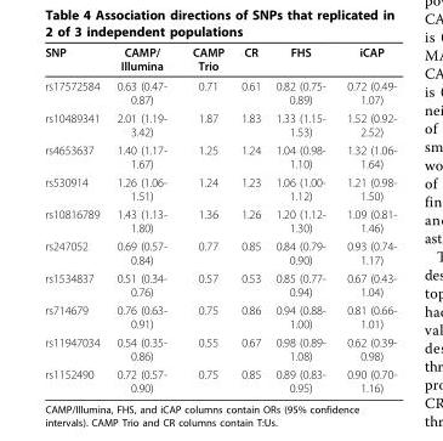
<table><thead><tr><td>SNP</td><td>CAMP/ Illumina</td><td>CAMP Trio</td><td>CR</td><td>FHS</td><td>iCAP</td></tr></thead><tbody><tr><td>rs17572584</td><td>0.63 (0.47- 0.87)</td><td>0.71</td><td>0.61</td><td>0.82 (0.75- 0.89)</td><td>0.72 (0.49- 1.07)</td></tr><tr><td>rs10489341</td><td>2.01 (1.19- 3.42)</td><td>1.87</td><td>1.83</td><td>1.33 (1.15- 1.53)</td><td>1.52 (0.92- 2.52)</td></tr><tr><td>rs4653637</td><td>1.40 (1.17- 1.67)</td><td>1.25</td><td>1.24</td><td>1.04 (0.98- 1.10)</td><td>1.32 (1.06- 1.64)</td></tr><tr><td>rs530914</td><td>1.26 (1.06- 1.51)</td><td>1.24</td><td>1.23</td><td>1.06 (1.00- 1.12)</td><td>1.21 (0.98- 1.50)</td></tr><tr><td>rs10816789</td><td>1.43 (1.13- 1.80)</td><td>1.36</td><td>1.26</td><td>1.20 (1.12- 1.30)</td><td>1.09 (0.81- 1.46)</td></tr><tr><td>rs247052</td><td>0.69 (0.57- 0.84)</td><td>0.77</td><td>0.85</td><td>0.84 (0.79- 0.90)</td><td>0.93 (0.74- 1.17)</td></tr><tr><td>rs1534837</td><td>0.51 (0.34- 0.76)</td><td>0.57</td><td>0.53</td><td>0.85 (0.77- 0.94)</td><td>0.67 (0.43- 1.04)</td></tr><tr><td>rs714679</td><td>0.76 (0.63- 0.91)</td><td>0.75</td><td>0.86</td><td>0.94 (0.88- 1.00)</td><td>0.81 (0.66- 1.01)</td></tr><tr><td>rs11947034</td><td>0.54 (0.35- 0.86)</td><td>0.55</td><td>0.67</td><td>0.98 (0.89- 1.08)</td><td>0.62 (0.39- 0.98)</td></tr><tr><td>rs1152490</td><td>0.72 (0.57- 0.90)</td><td>0.75</td><td>0.85</td><td>0.89 (0.83- 0.95)</td><td>0.90 (0.70- 1.16)</td></tr></tbody></table>